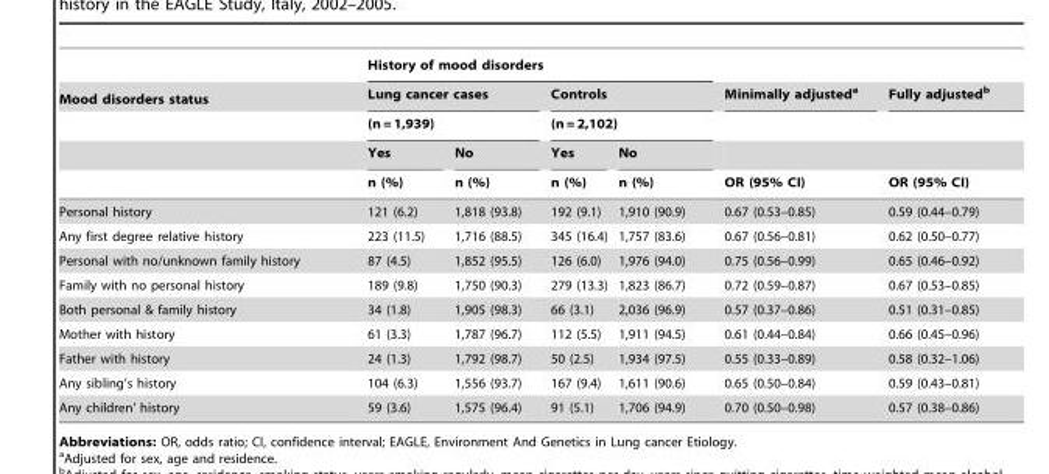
<table><thead><tr><td rowspan="5">Mood disorders status</td><td colspan="4">History of mood disorders</td><td rowspan="5">Minimally adjusted<sup>a</sup> OR (95% CI)</td><td rowspan="5">Fully adjusted<sup>b</sup> OR (95% CI)</td></tr><tr><td rowspan="2" colspan="2">Lung cancer cases (n = 1,939)</td><td rowspan="2" colspan="2">Controls (n = 2,102)</td></tr><tr></tr><tr><td rowspan="2">Yes n (%)</td><td rowspan="2">No n (%)</td><td rowspan="2">Yes n (%)</td><td rowspan="2">No n (%)</td></tr><tr></tr></thead><tbody><tr><td>Personal history</td><td>121 (6.2)</td><td>1,818 (93.8)</td><td>192 (9.1)</td><td>1,910 (90.9)</td><td>0.67 (0.53–0.85)</td><td>0.59 (0.44–0.79)</td></tr><tr><td>Any first degree relative history</td><td>223 (11.5)</td><td>1,716 (88.5)</td><td>345 (16.4)</td><td>1,757 (83.6)</td><td>0.67 (0.56–0.81)</td><td>0.62 (0.50–0.77)</td></tr><tr><td>Personal with no/unknown family history</td><td>87 (4.5)</td><td>1,852 (95.5)</td><td>126 (6.0)</td><td>1,976 (94.0)</td><td>0.75 (0.56–0.99)</td><td>0.65 (0.46–0.92)</td></tr><tr><td>Family with no personal history</td><td>189 (9.8)</td><td>1,750 (90.3)</td><td>279 (13.3)</td><td>1,823 (86.7)</td><td>0.72 (0.59–0.87)</td><td>0.67 (0.53–0.85)</td></tr><tr><td>Both personal &amp; family history</td><td>34 (1.8)</td><td>1,905 (98.3)</td><td>66 (3.1)</td><td>2,036 (96.9)</td><td>0.57 (0.37–0.86)</td><td>0.51 (0.31–0.85)</td></tr><tr><td>Mother with history</td><td>61 (3.3)</td><td>1,787 (96.7)</td><td>112 (5.5)</td><td>1,911 (94.5)</td><td>0.61 (0.44–0.84)</td><td>0.66 (0.45–0.96)</td></tr><tr><td>Father with history</td><td>24 (1.3)</td><td>1,792 (98.7)</td><td>50 (2.5)</td><td>1,934 (97.5)</td><td>0.55 (0.33–0.89)</td><td>0.58 (0.32–1.06)</td></tr><tr><td>Any sibling’s history</td><td>104 (6.3)</td><td>1,556 (93.7)</td><td>167 (9.4)</td><td>1,611 (90.6)</td><td>0.65 (0.50–0.84)</td><td>0.59 (0.43–0.81)</td></tr><tr><td>Any children’ history</td><td>59 (3.6)</td><td>1,575 (96.4)</td><td>91 (5.1)</td><td>1,706 (94.9)</td><td>0.70 (0.50–0.98)</td><td>0.57 (0.38–0.86)</td></tr></tbody></table>